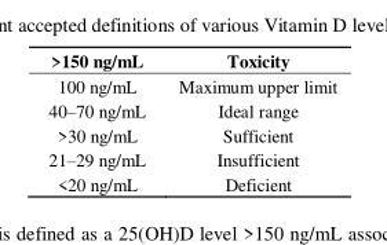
<table><thead><tr><td>&gt;150 ng/mL</td><td>Toxicity</td></tr></thead><tbody><tr><td>100 ng/mL</td><td>Maximum upper limit</td></tr><tr><td>40–70 ng/mL</td><td>Ideal range</td></tr><tr><td>&gt;30 ng/mL</td><td>Sufficient</td></tr><tr><td>21–29 ng/mL</td><td>Insufficient</td></tr><tr><td>&lt;20 ng/mL</td><td>Deficient</td></tr></tbody></table>